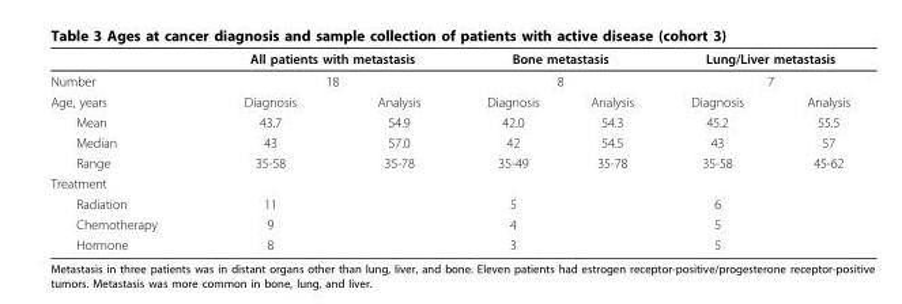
<table><thead><tr><td rowspan="3">Number Age, years</td><td rowspan="2" colspan="2">All patients with metastasis 18</td><td rowspan="2" colspan="2">Bone metastasis 8</td><td rowspan="2" colspan="2">Lung/Liver metastasis 7</td></tr><tr></tr><tr><td>Diagnosis</td><td>Analysis</td><td>Diagnosis</td><td>Analysis</td><td>Diagnosis</td><td>Analysis</td></tr></thead><tbody><tr><td>Mean</td><td>43.7</td><td>54.9</td><td>42.0</td><td>54.3</td><td>45.2</td><td>55.5</td></tr><tr><td>Median</td><td>43</td><td>57.0</td><td>42</td><td>54.5</td><td>43</td><td>57</td></tr><tr><td>Range</td><td>35-58</td><td>35-78</td><td>35-49</td><td>35-78</td><td>35-58</td><td>45-62</td></tr><tr><td colspan="7">Treatment</td></tr><tr><td>Radiation</td><td>11</td><td></td><td>5</td><td></td><td>6</td><td></td></tr><tr><td>Chemotherapy</td><td>9</td><td></td><td>4</td><td></td><td>5</td><td></td></tr><tr><td>Hormone</td><td>8</td><td></td><td>3</td><td></td><td>5</td><td></td></tr></tbody></table>